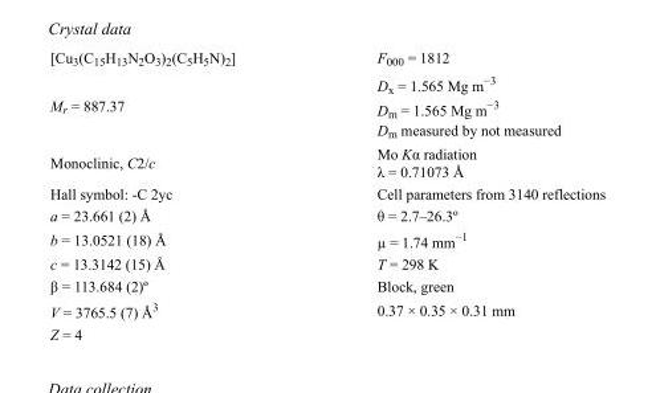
<table><tbody><tr><td>[Cu<sub>3</sub>(C<sub>15</sub>H<sub>13</sub>N<sub>2</sub>O<sub>3</sub>)<sub>2</sub>(C<sub>5</sub>H<sub>5</sub>N)<sub>2</sub>]</td><td>F000 = 1812</td></tr><tr><td>M<sub>r</sub> = 887.37</td><td>D<sub>x</sub> = 1.565 Mg m<sup>−3</sup> D<sub>m</sub> = 1.565 Mg m<sup>−3</sup> D<sub>m</sub> measured by not measured</td></tr><tr><td>Monoclinic, C2/c</td><td>Mo Kα radiation λ = 0.71073 Å</td></tr><tr><td>Hall symbol: -C 2yc</td><td>Cell parameters from 3140 reflections</td></tr><tr><td>a = 23.661 (2) Å</td><td>θ = 2.7–26.3º</td></tr><tr><td>b = 13.0521 (18) Å</td><td>µ = 1.74 mm<sup>−1</sup></td></tr><tr><td>c = 13.3142 (15) Å</td><td>T = 298 K</td></tr><tr><td>β = 113.684 (2)º</td><td>Block, green</td></tr><tr><td>V = 3765.5 (7) Å<sup>3</sup></td><td>0.37 × 0.35 × 0.31 mm</td></tr><tr><td>Z = 4</td><td></td></tr></tbody></table>